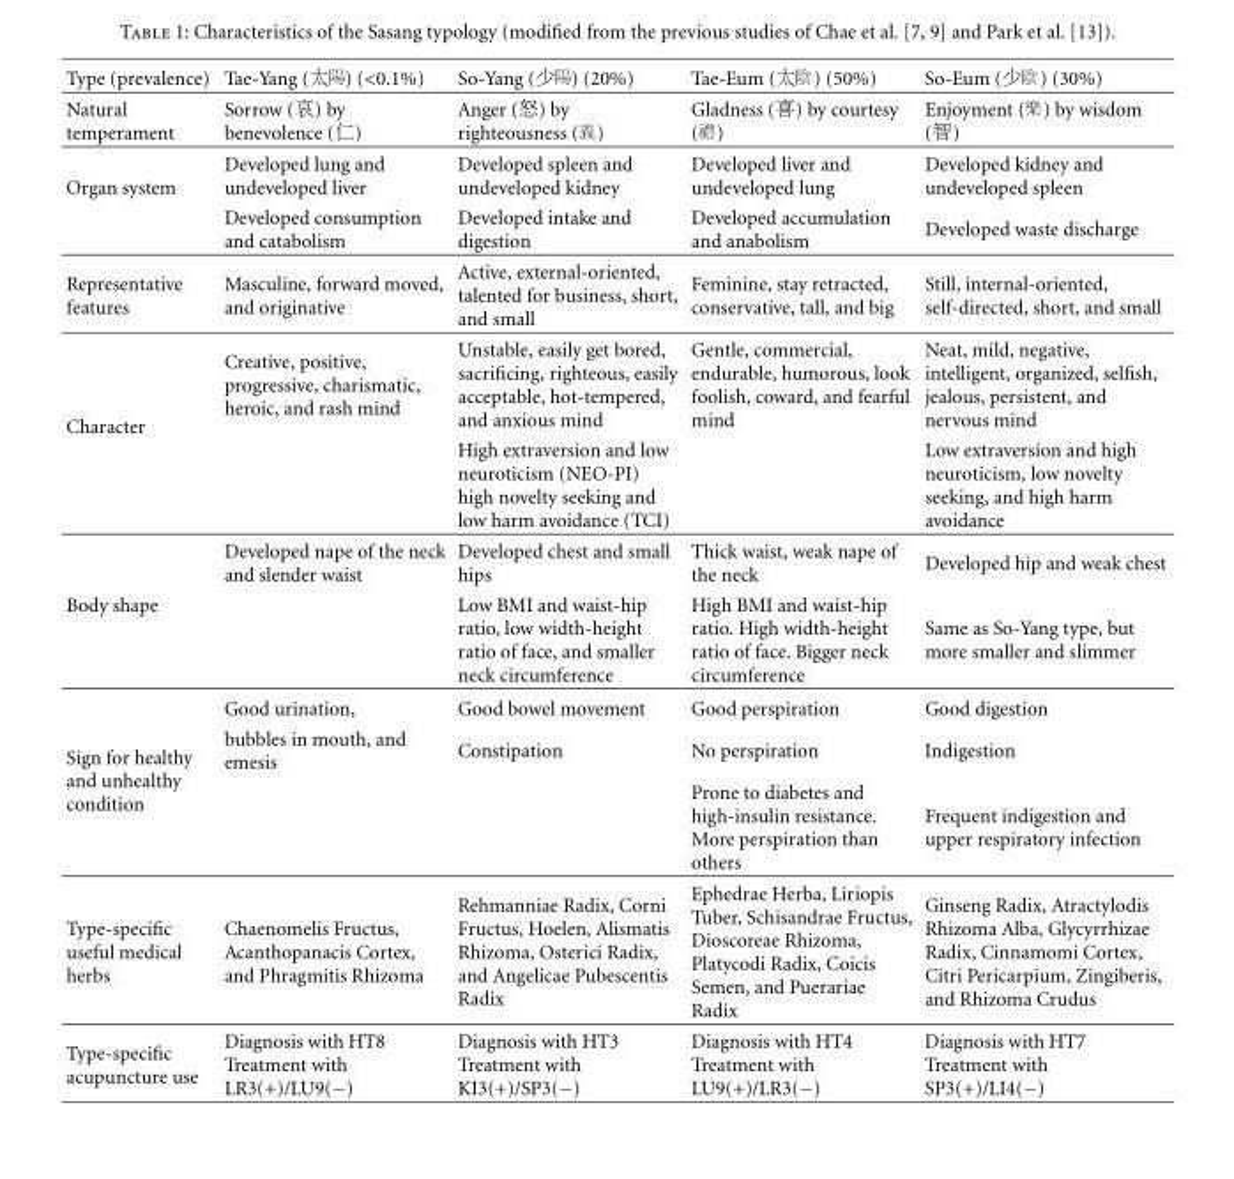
<table><thead><tr><td>Type (prevalence)</td><td>Tae-Yang (太 ) (&lt;0.1%)</td><td>So-Yang (少 ) (20%)</td><td>Tae-Eum (太 ) (50%)</td><td>So-Eum (少 ) (30%)</td></tr></thead><tbody><tr><td>Natural temperament</td><td>Sorrow (哀) by benevolence (仁)</td><td>Anger (怒) by righteousness ( )</td><td>Gladness (喜) by courtesy ( )</td><td>Enjoyment ( ) by wisdom (智)</td></tr><tr><td rowspan="2">Organ system</td><td>Developed lung and undeveloped liver</td><td>Developed spleen and undeveloped kidney</td><td>Developed liver and undeveloped lung</td><td>Developed kidney and undeveloped spleen</td></tr><tr><td>Developed consumption and catabolism</td><td>Developed intake and digestion</td><td>Developed accumulation and anabolism</td><td>Developed waste discharge</td></tr><tr><td>Representative features</td><td>Masculine, forward moved, and originative</td><td>Active, external-oriented, talented for business, short, and small</td><td>Feminine, stay retracted, conservative, tall, and big</td><td>Still, internal-oriented, self-directed, short, and small</td></tr><tr><td rowspan="2">Character</td><td>Creative, positive, progressive, charismatic, heroic, and rash mind</td><td>Unstable, easily get bored, sacrificing, righteous, easily acceptable, hot-tempered, and anxious mind</td><td>Gentle, commercial, endurable, humorous, look foolish, coward, and fearful mind</td><td>Neat, mild, negative, intelligent, organized, selfish, jealous, persistent, and nervous mind</td></tr><tr><td></td><td>High extraversion and low neuroticism (NEO-PI) high novelty seeking and low harm avoidance (TCI)</td><td></td><td>Low extraversion and high neuroticism, low novelty seeking, and high harm avoidance</td></tr><tr><td rowspan="2">Body shape</td><td>Developed nape of the neck and slender waist</td><td>Developed chest and small hips</td><td>Thick waist, weak nape of the neck</td><td>Developed hip and weak chest</td></tr><tr><td></td><td>Low BMI and waist-hip ratio, low width-height ratio of face, and smaller neck circumference</td><td>High BMI and waist-hip ratio. High width-height ratio of face. Bigger neck circumference</td><td>Same as So-Yang type, but more smaller and slimmer</td></tr><tr><td rowspan="3">Sign for healthy and unhealthy condition</td><td>Good urination,</td><td>Good bowel movement</td><td>Good perspiration</td><td>Good digestion</td></tr><tr><td>bubbles in mouth, and emesis</td><td>Constipation</td><td>No perspiration</td><td>Indigestion</td></tr><tr><td></td><td></td><td>Prone to diabetes and high-insulin resistance. More perspiration than others</td><td>Frequent indigestion and upper respiratory infection</td></tr><tr><td>Type-specific useful medical herbs</td><td>Chaenomelis Fructus, Acanthopanacis Cortex, and Phragmitis Rhizoma</td><td>Rehmanniae Radix, Corni Fructus, Hoelen, Alismatis Rhizoma, Osterici Radix, and Angelicae Pubescentis Radix</td><td>Ephedrae Herba, Liriopis Tuber, Schisandrae Fructus, Dioscoreae Rhizoma, Platycodi Radix, Coicis Semen, and Puerariae Radix</td><td>Ginseng Radix, Atractylodis Rhizoma Alba, Glycyrrhizae Radix, Cinnamomi Cortex, Citri Pericarpium, Zingiberis, and Rhizoma Crudus</td></tr><tr><td>Type-specific acupuncture use</td><td>Diagnosis with HT8 Treatment with LR3(+)/LU9(−)</td><td>Diagnosis with HT3 Treatment with KI3(+)/SP3(−)</td><td>Diagnosis with HT4 Treatment with LU9(+)/LR3(−)</td><td>Diagnosis with HT7 Treatment with SP3(+)/LI4(−)</td></tr></tbody></table>